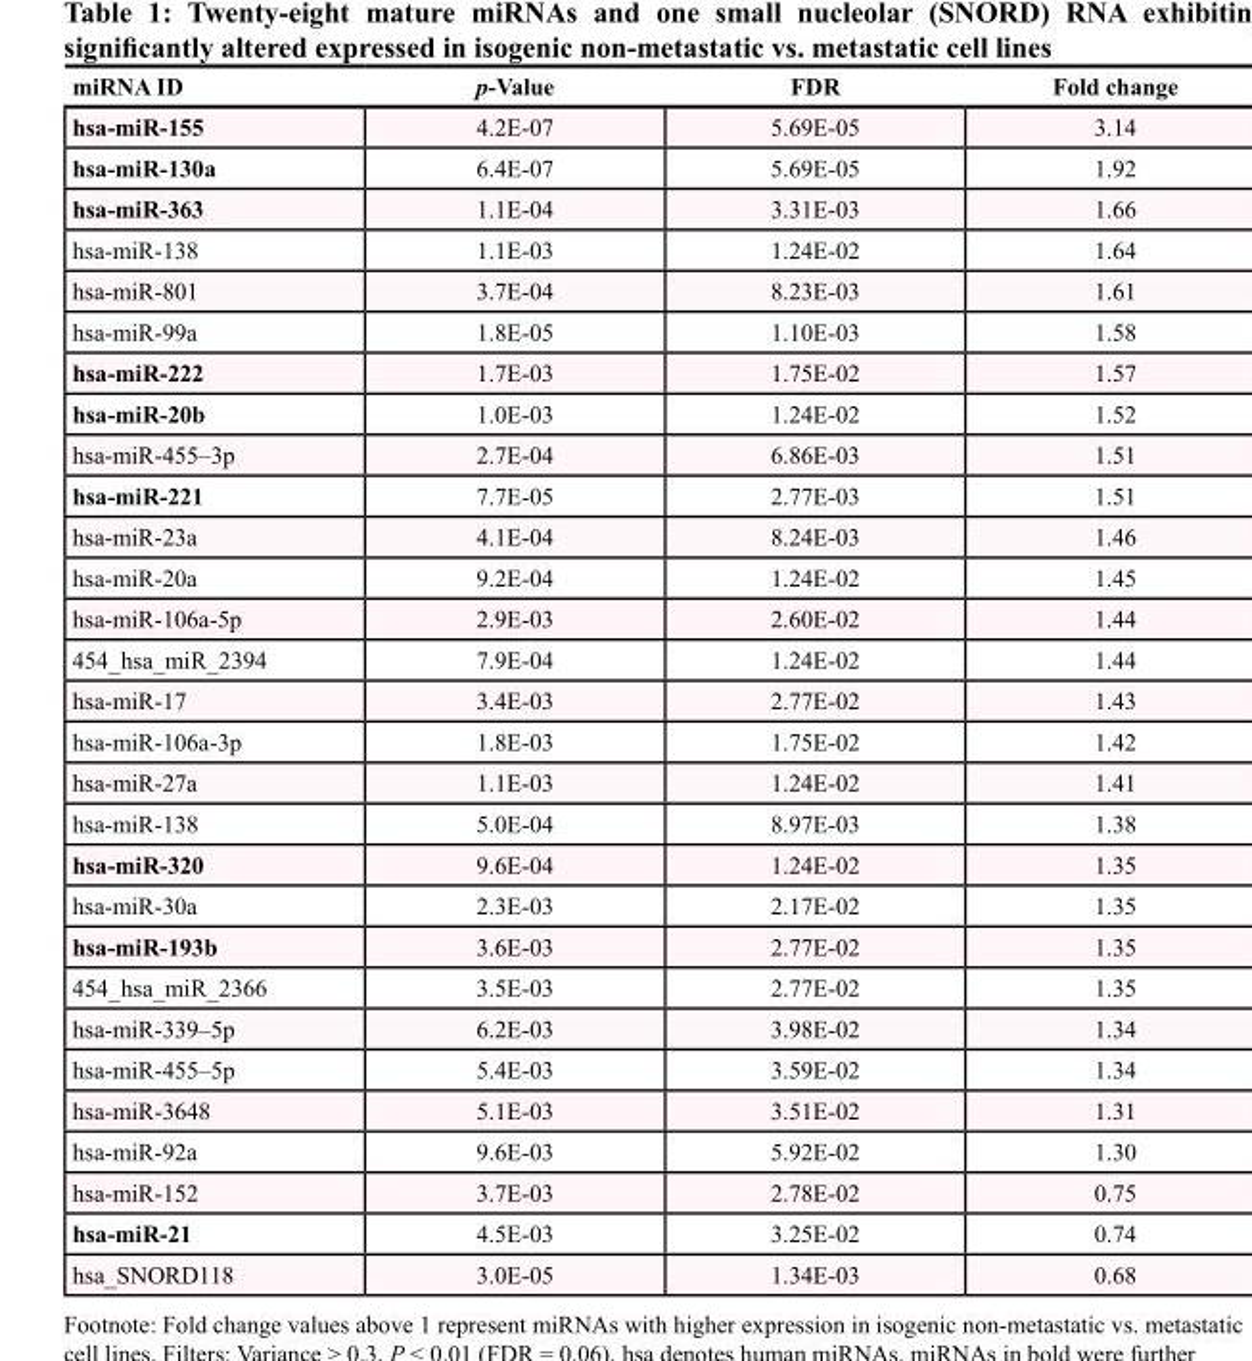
<table><thead><tr><td>miRNA ID</td><td>p-Value</td><td>FDR</td><td>Fold change</td></tr></thead><tbody><tr><td>hsa-miR-155</td><td>4.2E-07</td><td>5.69E-05</td><td>3.14</td></tr><tr><td>hsa-miR-130a</td><td>6.4E-07</td><td>5.69E-05</td><td>1.92</td></tr><tr><td>hsa-miR-363</td><td>1.1E-04</td><td>3.31E-03</td><td>1.66</td></tr><tr><td>hsa-miR-138</td><td>1.1E-03</td><td>1.24E-02</td><td>1.64</td></tr><tr><td>hsa-miR-801</td><td>3.7E-04</td><td>8.23E-03</td><td>1.61</td></tr><tr><td>hsa-miR-99a</td><td>1.8E-05</td><td>1.10E-03</td><td>1.58</td></tr><tr><td>hsa-miR-222</td><td>1.7E-03</td><td>1.75E-02</td><td>1.57</td></tr><tr><td>hsa-miR-20b</td><td>1.0E-03</td><td>1.24E-02</td><td>1.52</td></tr><tr><td>hsa-miR-455–3p</td><td>2.7E-04</td><td>6.86E-03</td><td>1.51</td></tr><tr><td>hsa-miR-221</td><td>7.7E-05</td><td>2.77E-03</td><td>1.51</td></tr><tr><td>hsa-miR-23a</td><td>4.1E-04</td><td>8.24E-03</td><td>1.46</td></tr><tr><td>hsa-miR-20a</td><td>9.2E-04</td><td>1.24E-02</td><td>1.45</td></tr><tr><td>hsa-miR-106a-5p</td><td>2.9E-03</td><td>2.60E-02</td><td>1.44</td></tr><tr><td>454_hsa_miR_2394</td><td>7.9E-04</td><td>1.24E-02</td><td>1.44</td></tr><tr><td>hsa-miR-17</td><td>3.4E-03</td><td>2.77E-02</td><td>1.43</td></tr><tr><td>hsa-miR-106a-3p</td><td>1.8E-03</td><td>1.75E-02</td><td>1.42</td></tr><tr><td>hsa-miR-27a</td><td>1.1E-03</td><td>1.24E-02</td><td>1.41</td></tr><tr><td>hsa-miR-138</td><td>5.0E-04</td><td>8.97E-03</td><td>1.38</td></tr><tr><td>hsa-miR-320</td><td>9.6E-04</td><td>1.24E-02</td><td>1.35</td></tr><tr><td>hsa-miR-30a</td><td>2.3E-03</td><td>2.17E-02</td><td>1.35</td></tr><tr><td>hsa-miR-193b</td><td>3.6E-03</td><td>2.77E-02</td><td>1.35</td></tr><tr><td>454_hsa_miR_2366</td><td>3.5E-03</td><td>2.77E-02</td><td>1.35</td></tr><tr><td>hsa-miR-339–5p</td><td>6.2E-03</td><td>3.98E-02</td><td>1.34</td></tr><tr><td>hsa-miR-455–5p</td><td>5.4E-03</td><td>3.59E-02</td><td>1.34</td></tr><tr><td>hsa-miR-3648</td><td>5.1E-03</td><td>3.51E-02</td><td>1.31</td></tr><tr><td>hsa-miR-92a</td><td>9.6E-03</td><td>5.92E-02</td><td>1.30</td></tr><tr><td>hsa-miR-152</td><td>3.7E-03</td><td>2.78E-02</td><td>0.75</td></tr><tr><td>hsa-miR-21</td><td>4.5E-03</td><td>3.25E-02</td><td>0.74</td></tr><tr><td>hsa_SNORD118</td><td>3.0E-05</td><td>1.34E-03</td><td>0.68</td></tr></tbody></table>